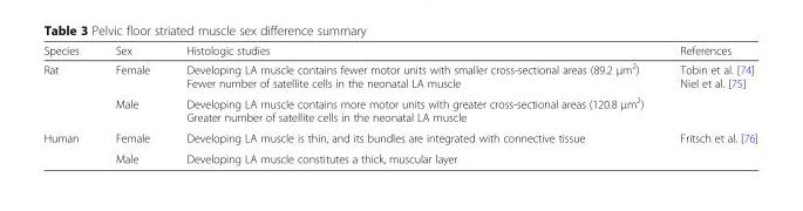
<table><thead><tr><td>Species</td><td>Sex</td><td>Histologic studies</td><td>References</td></tr></thead><tbody><tr><td rowspan="2">Rat</td><td>Female</td><td>Developing LA muscle contains fewer motor units with smaller cross-sectional areas (89.2 μm<sup>2</sup>) Fewer number of satellite cells in the neonatal LA muscle</td><td>Tobin et al. [74] Niel et al. [75]</td></tr><tr><td>Male</td><td>Developing LA muscle contains more motor units with greater cross-sectional areas (120.8 μm<sup>2</sup>) Greater number of satellite cells in the neonatal LA muscle</td><td></td></tr><tr><td rowspan="2">Human</td><td>Female</td><td>Developing LA muscle is thin, and its bundles are integrated with connective tissue</td><td>Fritsch et al. [76]</td></tr><tr><td>Male</td><td>Developing LA muscle constitutes a thick, muscular layer</td><td></td></tr></tbody></table>